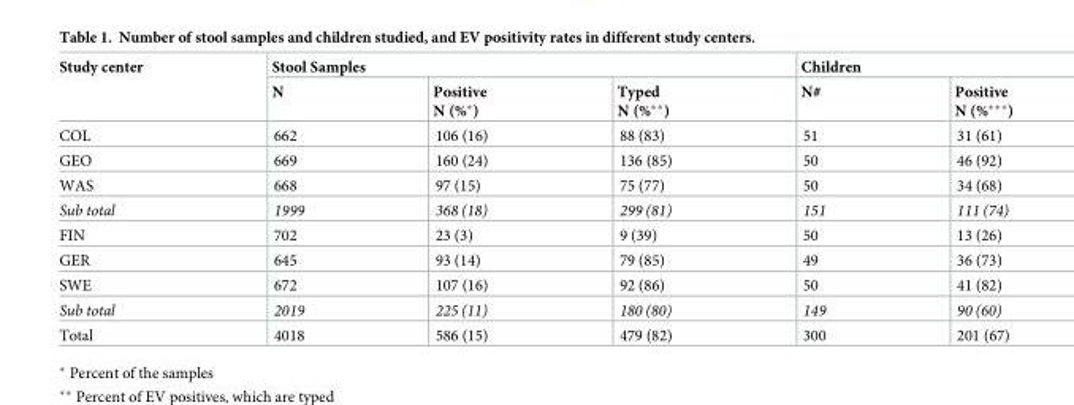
<table><thead><tr><td rowspan="2">Study center</td><td colspan="3">Stool Samples</td><td colspan="2">Children</td></tr><tr><td>N</td><td>Positive N (%*)</td><td>Typed N (%**)</td><td>N#</td><td>Positive N (%***)</td></tr></thead><tbody><tr><td>COL</td><td>662</td><td>106 (16)</td><td>88 (83)</td><td>51</td><td>31 (61)</td></tr><tr><td>GEO</td><td>669</td><td>160 (24)</td><td>136 (85)</td><td>50</td><td>46 (92)</td></tr><tr><td>WAS</td><td>668</td><td>97 (15)</td><td>75 (77)</td><td>50</td><td>34 (68)</td></tr><tr><td>Sub total</td><td>1999</td><td>368 (18)</td><td>299 (81)</td><td>151</td><td>111 (74)</td></tr><tr><td>FIN</td><td>702</td><td>23 (3)</td><td>9 (39)</td><td>50</td><td>13 (26)</td></tr><tr><td>GER</td><td>645</td><td>93 (14)</td><td>79 (85)</td><td>49</td><td>36 (73)</td></tr><tr><td>SWE</td><td>672</td><td>107 (16)</td><td>92 (86)</td><td>50</td><td>41 (82)</td></tr><tr><td>Sub total</td><td>2019</td><td>225 (11)</td><td>180 (80)</td><td>149</td><td>90 (60)</td></tr><tr><td>Total</td><td>4018</td><td>586 (15)</td><td>479 (82)</td><td>300</td><td>201 (67)</td></tr></tbody></table>